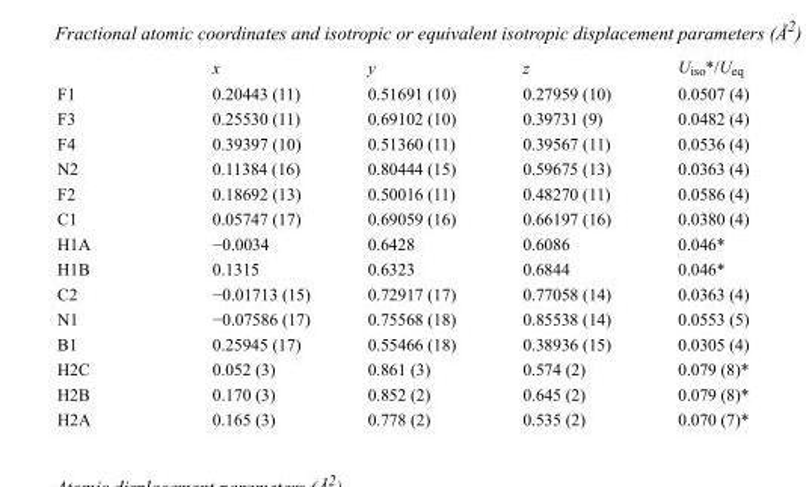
<table><thead><tr><td></td><td>x</td><td>y</td><td>z</td><td>U<sub>iso</sub>*/U<sub>eq</sub></td></tr></thead><tbody><tr><td>F1</td><td>0.20443 (11)</td><td>0.51691 (10)</td><td>0.27959 (10)</td><td>0.0507 (4)</td></tr><tr><td>F3</td><td>0.25530 (11)</td><td>0.69102 (10)</td><td>0.39731 (9)</td><td>0.0482 (4)</td></tr><tr><td>F4</td><td>0.39397 (10)</td><td>0.51360 (11)</td><td>0.39567 (11)</td><td>0.0536 (4)</td></tr><tr><td>N2</td><td>0.11384 (16)</td><td>0.80444 (15)</td><td>0.59675 (13)</td><td>0.0363 (4)</td></tr><tr><td>F2</td><td>0.18692 (13)</td><td>0.50016 (11)</td><td>0.48270 (11)</td><td>0.0586 (4)</td></tr><tr><td>C1</td><td>0.05747 (17)</td><td>0.69059 (16)</td><td>0.66197 (16)</td><td>0.0380 (4)</td></tr><tr><td>H1A</td><td>−0.0034</td><td>0.6428</td><td>0.6086</td><td>0.046*</td></tr><tr><td>H1B</td><td>0.1315</td><td>0.6323</td><td>0.6844</td><td>0.046*</td></tr><tr><td>C2</td><td>−0.01713 (15)</td><td>0.72917 (17)</td><td>0.77058 (14)</td><td>0.0363 (4)</td></tr><tr><td>N1</td><td>−0.07586 (17)</td><td>0.75568 (18)</td><td>0.85538 (14)</td><td>0.0553 (5)</td></tr><tr><td>B1</td><td>0.25945 (17)</td><td>0.55466 (18)</td><td>0.38936 (15)</td><td>0.0305 (4)</td></tr><tr><td>H2C</td><td>0.052 (3)</td><td>0.861 (3)</td><td>0.574 (2)</td><td>0.079 (8)*</td></tr><tr><td>H2B</td><td>0.170 (3)</td><td>0.852 (2)</td><td>0.645 (2)</td><td>0.079 (8)*</td></tr><tr><td>H2A</td><td>0.165 (3)</td><td>0.778 (2)</td><td>0.535 (2)</td><td>0.070 (7)*</td></tr></tbody></table>